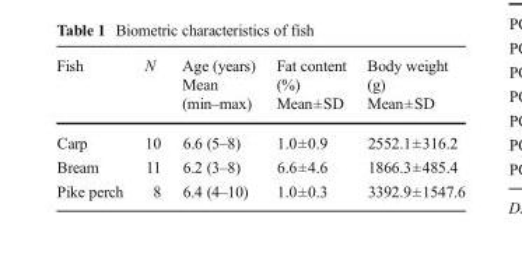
<table><thead><tr><td>Fish</td><td>N</td><td>Age (years) Mean (min–max)</td><td>Fat content (%) Mean±SD</td><td>Body weight (g) Mean±SD</td></tr></thead><tbody><tr><td>Carp</td><td>10</td><td>6.6 (5–8)</td><td>1.0±0.9</td><td>2552.1±316.2</td></tr><tr><td>Bream</td><td>11</td><td>6.2 (3–8)</td><td>6.6±4.6</td><td>1866.3±485.4</td></tr><tr><td>Pike perch</td><td>8</td><td>6.4 (4–10)</td><td>1.0±0.3</td><td>3392.9±1547.6</td></tr></tbody></table>